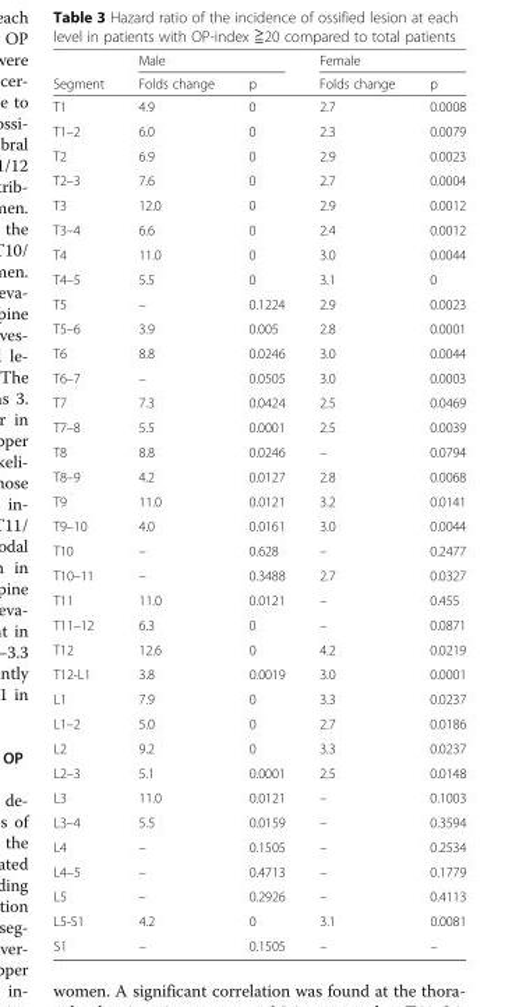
<table><thead><tr><td rowspan="2">Segment</td><td colspan="2">Male</td><td colspan="2">Female</td></tr><tr><td>Folds change</td><td>p</td><td>Folds change</td><td>p</td></tr></thead><tbody><tr><td>T1</td><td>4.9</td><td>0</td><td>2.7</td><td>0.0008</td></tr><tr><td>T1–2</td><td>6.0</td><td>0</td><td>2.3</td><td>0.0079</td></tr><tr><td>T2</td><td>6.9</td><td>0</td><td>2.9</td><td>0.0023</td></tr><tr><td>T2–3</td><td>7.6</td><td>0</td><td>2.7</td><td>0.0004</td></tr><tr><td>T3</td><td>12.0</td><td>0</td><td>2.9</td><td>0.0012</td></tr><tr><td>T3–4</td><td>6.6</td><td>0</td><td>2.4</td><td>0.0012</td></tr><tr><td>T4</td><td>11.0</td><td>0</td><td>3.0</td><td>0.0044</td></tr><tr><td>T4–5</td><td>5.5</td><td>0</td><td>3.1</td><td>0</td></tr><tr><td>T5</td><td>–</td><td>0.1224</td><td>2.9</td><td>0.0023</td></tr><tr><td>T5–6</td><td>3.9</td><td>0.005</td><td>2.8</td><td>0.0001</td></tr><tr><td>T6</td><td>8.8</td><td>0.0246</td><td>3.0</td><td>0.0044</td></tr><tr><td>T6–7</td><td>–</td><td>0.0505</td><td>3.0</td><td>0.0003</td></tr><tr><td>T7</td><td>7.3</td><td>0.0424</td><td>2.5</td><td>0.0469</td></tr><tr><td>T7–8</td><td>5.5</td><td>0.0001</td><td>2.5</td><td>0.0039</td></tr><tr><td>T8</td><td>8.8</td><td>0.0246</td><td>–</td><td>0.0794</td></tr><tr><td>T8–9</td><td>4.2</td><td>0.0127</td><td>2.8</td><td>0.0068</td></tr><tr><td>T9</td><td>11.0</td><td>0.0121</td><td>3.2</td><td>0.0141</td></tr><tr><td>T9–10</td><td>4.0</td><td>0.0161</td><td>3.0</td><td>0.0044</td></tr><tr><td>T10</td><td>–</td><td>0.628</td><td>–</td><td>0.2477</td></tr><tr><td>T10–11</td><td>–</td><td>0.3488</td><td>2.7</td><td>0.0327</td></tr><tr><td>T11</td><td>11.0</td><td>0.0121</td><td>–</td><td>0.455</td></tr><tr><td>T11–12</td><td>6.3</td><td>0</td><td>–</td><td>0.0871</td></tr><tr><td>T12</td><td>12.6</td><td>0</td><td>4.2</td><td>0.0219</td></tr><tr><td>T12-L1</td><td>3.8</td><td>0.0019</td><td>3.0</td><td>0.0001</td></tr><tr><td>L1</td><td>7.9</td><td>0</td><td>3.3</td><td>0.0237</td></tr><tr><td>L1–2</td><td>5.0</td><td>0</td><td>2.7</td><td>0.0186</td></tr><tr><td>L2</td><td>9.2</td><td>0</td><td>3.3</td><td>0.0237</td></tr><tr><td>L2–3</td><td>5.1</td><td>0.0001</td><td>2.5</td><td>0.0148</td></tr><tr><td>L3</td><td>11.0</td><td>0.0121</td><td>–</td><td>0.1003</td></tr><tr><td>L3–4</td><td>5.5</td><td>0.0159</td><td>–</td><td>0.3594</td></tr><tr><td>L4</td><td>–</td><td>0.1505</td><td>–</td><td>0.2534</td></tr><tr><td>L4–5</td><td>–</td><td>0.4713</td><td>–</td><td>0.1779</td></tr><tr><td>L5</td><td>–</td><td>0.2926</td><td>–</td><td>0.4113</td></tr><tr><td>L5-S1</td><td>4.2</td><td>0</td><td>3.1</td><td>0.0081</td></tr><tr><td>S1</td><td>–</td><td>0.1505</td><td>–</td><td>–</td></tr></tbody></table>